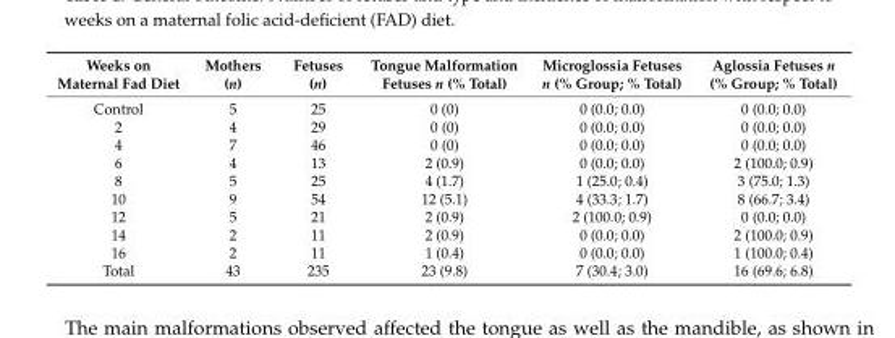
<table><thead><tr><td>Weeks on Maternal Fad Diet</td><td>Mothers (n)</td><td>Fetuses (n)</td><td>Tongue Malformation Fetuses n (% Total)</td><td>Microglossia Fetuses n (% Group; % Total)</td><td>Aglossia Fetuses n (% Group; % Total)</td></tr></thead><tbody><tr><td>Control</td><td>5</td><td>25</td><td>0 (0)</td><td>0 (0.0; 0.0)</td><td>0 (0.0; 0.0)</td></tr><tr><td>2</td><td>4</td><td>29</td><td>0 (0)</td><td>0 (0.0; 0.0)</td><td>0 (0.0; 0.0)</td></tr><tr><td>4</td><td>7</td><td>46</td><td>0 (0)</td><td>0 (0.0; 0.0)</td><td>0 (0.0; 0.0)</td></tr><tr><td>6</td><td>4</td><td>13</td><td>2 (0.9)</td><td>0 (0.0; 0.0)</td><td>2 (100.0; 0.9)</td></tr><tr><td>8</td><td>5</td><td>25</td><td>4 (1.7)</td><td>1 (25.0; 0.4)</td><td>3 (75.0; 1.3)</td></tr><tr><td>10</td><td>9</td><td>54</td><td>12 (5.1)</td><td>4 (33.3; 1.7)</td><td>8 (66.7; 3.4)</td></tr><tr><td>12</td><td>5</td><td>21</td><td>2 (0.9)</td><td>2 (100.0; 0.9)</td><td>0 (0.0; 0.0)</td></tr><tr><td>14</td><td>2</td><td>11</td><td>2 (0.9)</td><td>0 (0.0; 0.0)</td><td>2 (100.0; 0.9)</td></tr><tr><td>16</td><td>2</td><td>11</td><td>1 (0.4)</td><td>0 (0.0; 0.0)</td><td>1 (100.0; 0.4)</td></tr><tr><td>Total</td><td>43</td><td>235</td><td>23 (9.8)</td><td>7 (30.4; 3.0)</td><td>16 (69.6; 6.8)</td></tr></tbody></table>